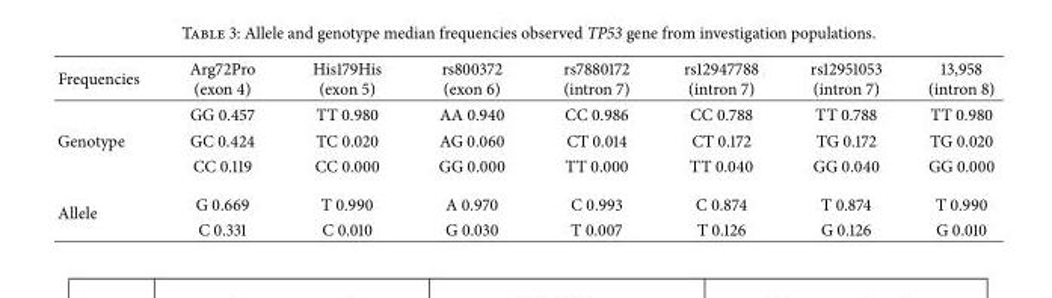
<table><thead><tr><td>Frequencies</td><td>Arg72Pro (exon 4)</td><td>His179His (exon 5)</td><td>rs800372 (exon 6)</td><td>rs7880172 (intron 7)</td><td>rs12947788 (intron 7)</td><td>rs12951053 (intron 7)</td><td>13,958 (intron 8)</td></tr></thead><tbody><tr><td></td><td>GG 0.457</td><td>TT 0.980</td><td>AA 0.940</td><td>CC 0.986</td><td>CC 0.788</td><td>TT 0.788</td><td>TT 0.980</td></tr><tr><td rowspan="2">Genotype</td><td>GC 0.424</td><td>TC 0.020</td><td>AG 0.060</td><td>CT 0.014</td><td>CT 0.172</td><td>TG 0.172</td><td>TG 0.020</td></tr><tr><td>CC 0.119</td><td>CC 0.000</td><td>GG 0.000</td><td>TT 0.000</td><td>TT 0.040</td><td>GG 0.040</td><td>GG 0.000</td></tr><tr><td rowspan="2">Allele</td><td>G 0.669</td><td>T 0.990</td><td>A 0.970</td><td>C 0.993</td><td>C 0.874</td><td>T 0.874</td><td>T 0.990</td></tr><tr><td>C 0.331</td><td>C 0.010</td><td>G 0.030</td><td>T 0.007</td><td>T 0.126</td><td>G 0.126</td><td>G 0.010</td></tr></tbody></table>